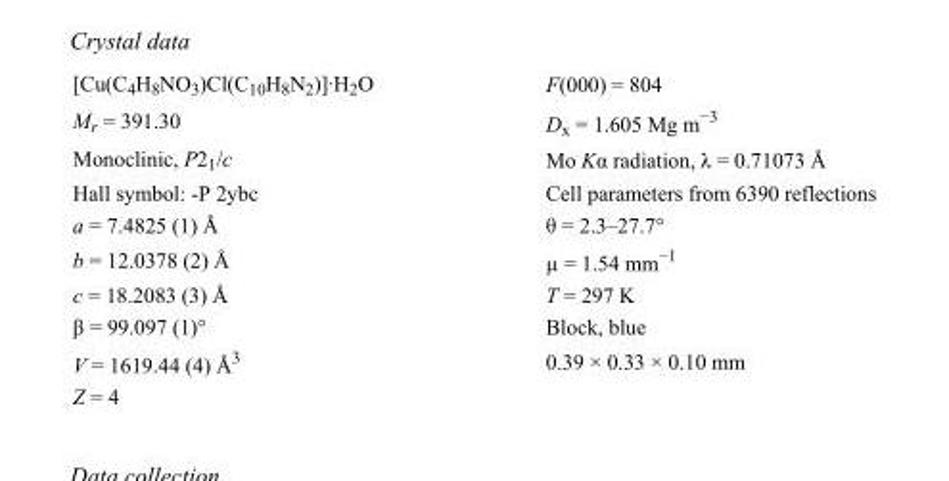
<table><tbody><tr><td>[Cu(C<sub>4</sub>H<sub>8</sub>NO<sub>3</sub>)Cl(C<sub>10</sub>H<sub>8</sub>N<sub>2</sub>)]·H<sub>2</sub>O</td><td>F(000) = 804</td></tr><tr><td>M<sub>r</sub> = 391.30</td><td>D<sub>x</sub> = 1.605 Mg m<sup>−3</sup></td></tr><tr><td>Monoclinic, P2<sub>1</sub>/c</td><td>Mo Kα radiation, λ = 0.71073 Å</td></tr><tr><td>Hall symbol: -P 2ybc</td><td>Cell parameters from 6390 reflections</td></tr><tr><td>a = 7.4825 (1) Å</td><td>θ = 2.3–27.7°</td></tr><tr><td>b = 12.0378 (2) Å</td><td>µ = 1.54 mm<sup>−1</sup></td></tr><tr><td>c = 18.2083 (3) Å</td><td>T = 297 K</td></tr><tr><td>β = 99.097 (1)°</td><td>Block, blue</td></tr><tr><td>V = 1619.44 (4) Å<sup>3</sup></td><td>0.39 × 0.33 × 0.10 mm</td></tr><tr><td>Z = 4</td><td></td></tr></tbody></table>